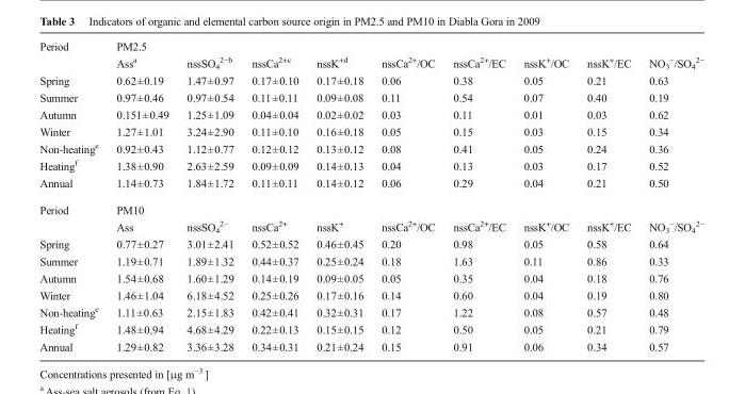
<table><tbody><tr><td rowspan="2">Period</td><td colspan="9">PM2.5</td></tr><tr><td>Ass<sup>a</sup></td><td>nssSO<sub>4</sub> <sup>2−b</sup></td><td>nssCa<sup>2+c</sup></td><td>nssK<sup>+d</sup></td><td>nssCa<sup>2+</sup>/OC</td><td>nssCa<sup>2+</sup>/EC</td><td>nssK<sup>+</sup>/OC</td><td>nssK<sup>+</sup>/EC</td><td>NO<sub>3</sub> <sup>−</sup>/SO<sub>4</sub> <sup>2−</sup></td></tr><tr><td>Spring</td><td>0.62±0.19</td><td>1.47±0.97</td><td>0.17±0.10</td><td>0.17±0.18</td><td>0.06</td><td>0.38</td><td>0.05</td><td>0.21</td><td>0.63</td></tr><tr><td>Summer</td><td>0.97±0.46</td><td>0.97±0.54</td><td>0.11±0.11</td><td>0.09±0.08</td><td>0.11</td><td>0.54</td><td>0.07</td><td>0.40</td><td>0.19</td></tr><tr><td>Autumn</td><td>0.151±0.49</td><td>1.25±1.09</td><td>0.04±0.04</td><td>0.02±0.02</td><td>0.03</td><td>0.11</td><td>0.01</td><td>0.03</td><td>0.62</td></tr><tr><td>Winter</td><td>1.27±1.01</td><td>3.24±2.90</td><td>0.11±0.10</td><td>0.16±0.18</td><td>0.05</td><td>0.15</td><td>0.03</td><td>0.15</td><td>0.34</td></tr><tr><td>Non-heating<sup>e</sup></td><td>0.92±0.43</td><td>1.12±0.77</td><td>0.12±0.12</td><td>0.13±0.12</td><td>0.08</td><td>0.41</td><td>0.05</td><td>0.24</td><td>0.36</td></tr><tr><td>Heating<sup>f</sup></td><td>1.38±0.90</td><td>2.63±2.59</td><td>0.09±0.09</td><td>0.14±0.13</td><td>0.04</td><td>0.13</td><td>0.03</td><td>0.17</td><td>0.52</td></tr><tr><td>Annual</td><td>1.14±0.73</td><td>1.84±1.72</td><td>0.11±0.11</td><td>0.14±0.12</td><td>0.06</td><td>0.29</td><td>0.04</td><td>0.21</td><td>0.50</td></tr><tr><td rowspan="2">Period</td><td colspan="9">PM10</td></tr><tr><td>Ass</td><td>nssSO<sub>4</sub> <sup>2−</sup></td><td>nssCa<sup>2+</sup></td><td>nssK<sup>+</sup></td><td>nssCa<sup>2+</sup>/OC</td><td>nssCa<sup>2+</sup>/EC</td><td>nssK<sup>+</sup>/OC</td><td>nssK<sup>+</sup>/EC</td><td>NO<sub>3</sub> <sup>−</sup>/SO<sub>4</sub> <sup>2−</sup></td></tr><tr><td>Spring</td><td>0.77±0.27</td><td>3.01±2.41</td><td>0.52±0.52</td><td>0.46±0.45</td><td>0.20</td><td>0.98</td><td>0.05</td><td>0.58</td><td>0.64</td></tr><tr><td>Summer</td><td>1.19±0.71</td><td>1.89±1.32</td><td>0.44±0.37</td><td>0.25±0.24</td><td>0.18</td><td>1.63</td><td>0.11</td><td>0.86</td><td>0.33</td></tr><tr><td>Autumn</td><td>1.54±0.68</td><td>1.60±1.29</td><td>0.14±0.19</td><td>0.09±0.05</td><td>0.05</td><td>0.35</td><td>0.04</td><td>0.18</td><td>0.76</td></tr><tr><td>Winter</td><td>1.46±1.04</td><td>6.18±4.52</td><td>0.25±0.26</td><td>0.17±0.16</td><td>0.14</td><td>0.60</td><td>0.04</td><td>0.19</td><td>0.80</td></tr><tr><td>Non-heating<sup>e</sup></td><td>1.11±0.63</td><td>2.15±1.83</td><td>0.42±0.41</td><td>0.32±0.31</td><td>0.17</td><td>1.22</td><td>0.08</td><td>0.57</td><td>0.48</td></tr><tr><td>Heating<sup>f</sup></td><td>1.48±0.94</td><td>4.68±4.29</td><td>0.22±0.13</td><td>0.15±0.15</td><td>0.12</td><td>0.50</td><td>0.05</td><td>0.21</td><td>0.79</td></tr><tr><td>Annual</td><td>1.29±0.82</td><td>3.36±3.28</td><td>0.34±0.31</td><td>0.21±0.24</td><td>0.15</td><td>0.91</td><td>0.06</td><td>0.34</td><td>0.57</td></tr></tbody></table>